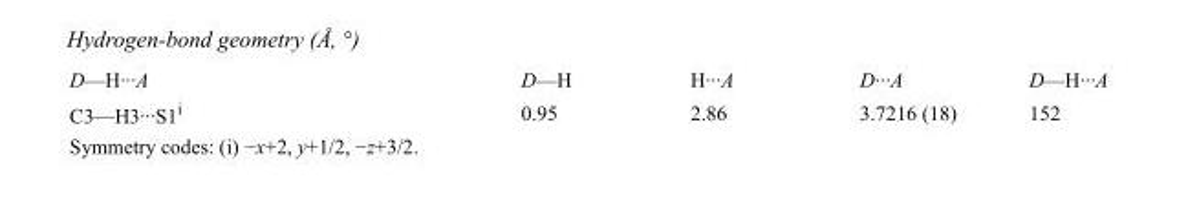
<table><tbody><tr><td>D—H···A</td><td>D—H</td><td>H···A</td><td>D···A</td><td>D—H···A</td></tr><tr><td>C3—H3···S1<sup>i</sup></td><td>0.95</td><td>2.86</td><td>3.7216 (18)</td><td>152</td></tr></tbody></table>